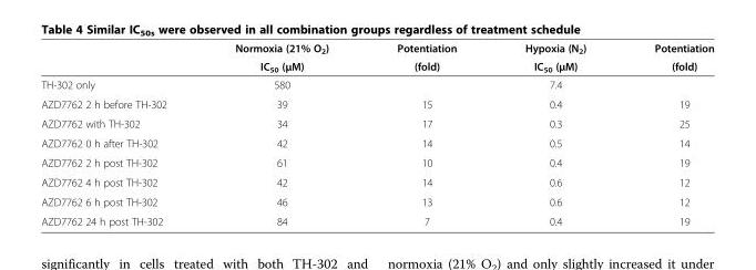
<table><thead><tr><td rowspan="2"></td><td rowspan="2">Normoxia (21% O<sub>2</sub>) IC<sub>50</sub> (μM)</td><td rowspan="2">Potentiation (fold)</td><td rowspan="2">Hypoxia (N<sub>2</sub>) IC<sub>50</sub> (μM)</td><td rowspan="2">Potentiation (fold)</td></tr><tr></tr></thead><tbody><tr><td>TH-302 only</td><td>580</td><td></td><td>7.4</td><td></td></tr><tr><td>AZD7762 2 h before TH-302</td><td>39</td><td>15</td><td>0.4</td><td>19</td></tr><tr><td>AZD7762 with TH-302</td><td>34</td><td>17</td><td>0.3</td><td>25</td></tr><tr><td>AZD7762 0 h after TH-302</td><td>42</td><td>14</td><td>0.5</td><td>14</td></tr><tr><td>AZD7762 2 h post TH-302</td><td>61</td><td>10</td><td>0.4</td><td>19</td></tr><tr><td>AZD7762 4 h post TH-302</td><td>42</td><td>14</td><td>0.6</td><td>12</td></tr><tr><td>AZD7762 6 h post TH-302</td><td>46</td><td>13</td><td>0.6</td><td>12</td></tr><tr><td>AZD7762 24 h post TH-302</td><td>84</td><td>7</td><td>0.4</td><td>19</td></tr></tbody></table>